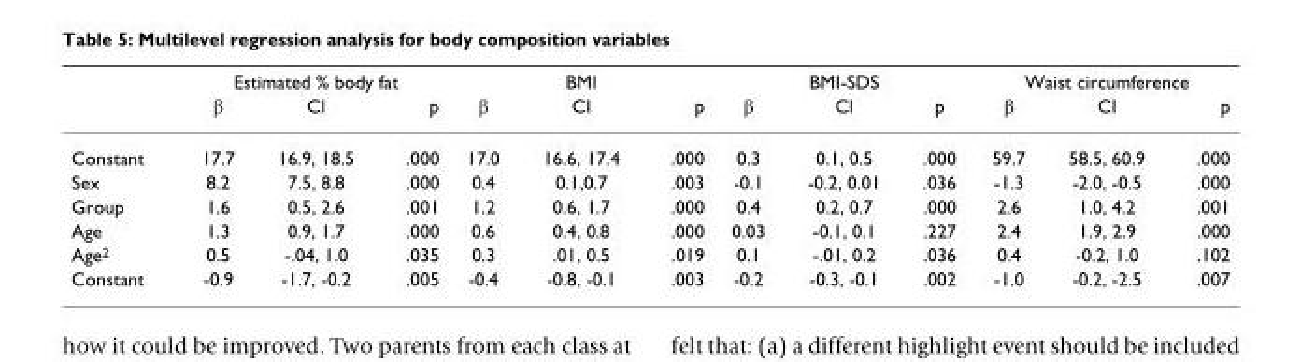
<table><thead><tr><td rowspan="2"></td><td colspan="3">Estimated % body fat</td><td colspan="3">BMI</td><td colspan="3">BMI-SDS</td><td colspan="3">Waist circumference</td></tr><tr><td>β</td><td>CI</td><td>p</td><td>β</td><td>CI</td><td>p</td><td>β</td><td>CI</td><td>p</td><td>β</td><td>CI</td><td>p</td></tr></thead><tbody><tr><td>Constant</td><td>17.7</td><td>16.9, 18.5</td><td>.000</td><td>17.0</td><td>16.6, 17.4</td><td>.000</td><td>0.3</td><td>0.1, 0.5</td><td>.000</td><td>59.7</td><td>58.5, 60.9</td><td>.000</td></tr><tr><td>Sex</td><td>8.2</td><td>7.5, 8.8</td><td>.000</td><td>0.4</td><td>0.1,0.7</td><td>.003</td><td>-0.1</td><td>-0.2, 0.01</td><td>.036</td><td>-1.3</td><td>-2.0, -0.5</td><td>.000</td></tr><tr><td>Group</td><td>1.6</td><td>0.5, 2.6</td><td>.001</td><td>1.2</td><td>0.6, 1.7</td><td>.000</td><td>0.4</td><td>0.2, 0.7</td><td>.000</td><td>2.6</td><td>1.0, 4.2</td><td>.001</td></tr><tr><td>Age</td><td>1.3</td><td>0.9, 1.7</td><td>.000</td><td>0.6</td><td>0.4, 0.8</td><td>.000</td><td>0.03</td><td>-0.1, 0.1</td><td>.227</td><td>2.4</td><td>1.9, 2.9</td><td>.000</td></tr><tr><td>Age<sup>2</sup></td><td>0.5</td><td>-.04, 1.0</td><td>.035</td><td>0.3</td><td>.01, 0.5</td><td>.019</td><td>0.1</td><td>-.01, 0.2</td><td>.036</td><td>0.4</td><td>-0.2, 1.0</td><td>.102</td></tr><tr><td>Constant</td><td>-0.9</td><td>-1.7, -0.2</td><td>.005</td><td>-0.4</td><td>-0.8, -0.1</td><td>.003</td><td>-0.2</td><td>-0.3, -0.1</td><td>.002</td><td>-1.0</td><td>-0.2, -2.5</td><td>.007</td></tr></tbody></table>